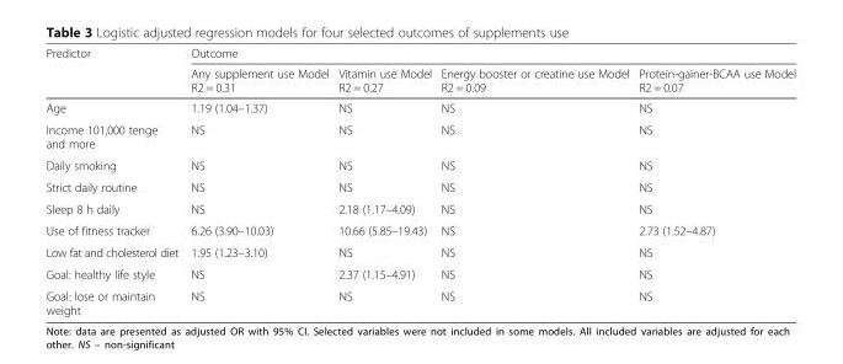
<table><thead><tr><td rowspan="2">Predictor</td><td colspan="4">Outcome</td></tr><tr><td>Any supplement use Model R2 = 0.31</td><td>Vitamin use Model R2 = 0.27</td><td>Energy booster or creatine use Model R2 = 0.09</td><td>Protein-gainer-BCAA use Model R2 = 0.07</td></tr></thead><tbody><tr><td>Age</td><td>1.19 (1.04–1.37)</td><td>NS</td><td>NS</td><td>NS</td></tr><tr><td>Income 101,000 tenge and more</td><td>NS</td><td>NS</td><td>NS</td><td>NS</td></tr><tr><td>Daily smoking</td><td>NS</td><td>NS</td><td>NS</td><td>NS</td></tr><tr><td>Strict daily routine</td><td>NS</td><td>NS</td><td>NS</td><td>NS</td></tr><tr><td>Sleep 8 h daily</td><td>NS</td><td>2.18 (1.17–4.09)</td><td>NS</td><td>NS</td></tr><tr><td>Use of fitness tracker</td><td>6.26 (3.90–10.03)</td><td>10.66 (5.85–19.43)</td><td>NS</td><td>2.73 (1.52–4.87)</td></tr><tr><td>Low fat and cholesterol diet</td><td>1.95 (1.23–3.10)</td><td>NS</td><td>NS</td><td>NS</td></tr><tr><td>Goal: healthy life style</td><td>NS</td><td>2.37 (1.15–4.91)</td><td>NS</td><td>NS</td></tr><tr><td>Goal: lose or maintain weight</td><td>NS</td><td>NS</td><td>NS</td><td>NS</td></tr></tbody></table>